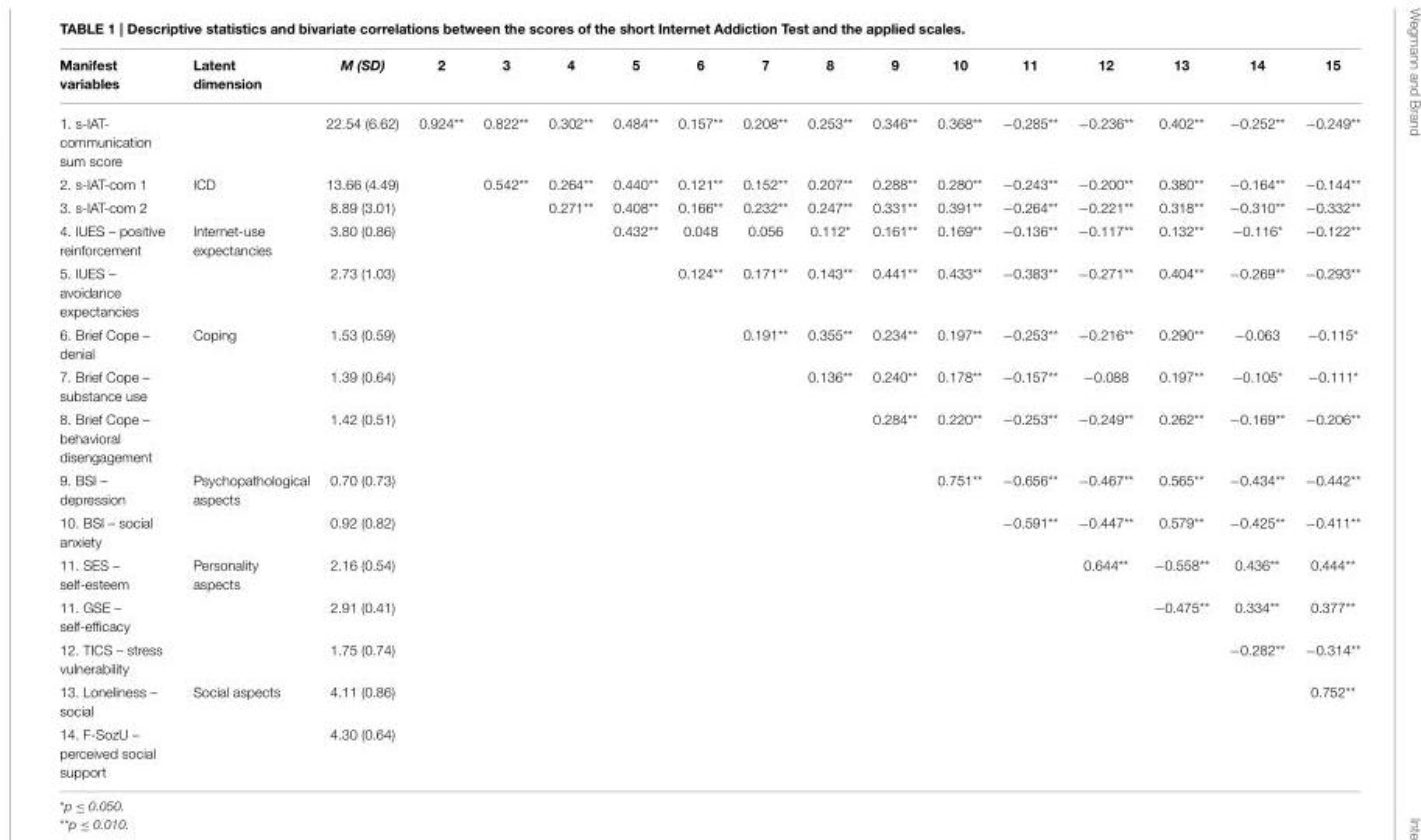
<table><thead><tr><td>Manifest variables</td><td>Latent dimension</td><td>M (SD)</td><td>2</td><td>3</td><td>4</td><td>5</td><td>6</td><td>7</td><td>8</td><td>9</td><td>10</td><td>11</td><td>12</td><td>13</td><td>14</td><td>15</td></tr></thead><tbody><tr><td>1. s-IAT- communication sum score</td><td></td><td>22.54 (6.62)</td><td>0.924**</td><td>0.822**</td><td>0.302**</td><td>0.484**</td><td>0.157**</td><td>0.208**</td><td>0.253**</td><td>0.346**</td><td>0.368**</td><td>−0.285**</td><td>−0.236**</td><td>0.402**</td><td>−0.252**</td><td>−0.249**</td></tr><tr><td>2. s-IAT-com 1</td><td>ICD</td><td>13.66 (4.49)</td><td></td><td>0.542**</td><td>0.264**</td><td>0.440**</td><td>0.121**</td><td>0.152**</td><td>0.207**</td><td>0.288**</td><td>0.280**</td><td>−0.243**</td><td>−0.200**</td><td>0.380**</td><td>−0.164**</td><td>−0.144**</td></tr><tr><td>3. s-IAT-com 2</td><td></td><td>8.89 (3.01)</td><td></td><td></td><td>0.271**</td><td>0.408**</td><td>0.166**</td><td>0.232**</td><td>0.247**</td><td>0.331**</td><td>0.391**</td><td>−0.264**</td><td>−0.221**</td><td>0.318**</td><td>−0.310**</td><td>−0.332**</td></tr><tr><td>4. IUES – positive reinforcement</td><td>Internet-use expectancies</td><td>3.80 (0.86)</td><td></td><td></td><td></td><td>0.432**</td><td>0.048</td><td>0.056</td><td>0.112*</td><td>0.161**</td><td>0.169**</td><td>−0.136**</td><td>−0.117**</td><td>0.132**</td><td>−0.116*</td><td>−0.122**</td></tr><tr><td>5. IUES – avoidance expectancies</td><td></td><td>2.73 (1.03)</td><td></td><td></td><td></td><td></td><td>0.124**</td><td>0.171**</td><td>0.143**</td><td>0.441**</td><td>0.433**</td><td>−0.383**</td><td>−0.271**</td><td>0.404**</td><td>−0.269**</td><td>−0.293**</td></tr><tr><td>6. Brief Cope – denial</td><td>Coping</td><td>1.53 (0.59)</td><td></td><td></td><td></td><td></td><td></td><td>0.191**</td><td>0.355**</td><td>0.234**</td><td>0.197**</td><td>−0.253**</td><td>−0.216**</td><td>0.290**</td><td>−0.063</td><td>−0.115*</td></tr><tr><td>7. Brief Cope – substance use</td><td></td><td>1.39 (0.64)</td><td></td><td></td><td></td><td></td><td></td><td></td><td>0.136**</td><td>0.240**</td><td>0.178**</td><td>−0.157**</td><td>−0.088</td><td>0.197**</td><td>−0.105*</td><td>−0.111*</td></tr><tr><td>8. Brief Cope – behavioral disengagement</td><td></td><td>1.42 (0.51)</td><td></td><td></td><td></td><td></td><td></td><td></td><td></td><td>0.284**</td><td>0.220**</td><td>−0.253**</td><td>−0.249**</td><td>0.262**</td><td>−0.169**</td><td>−0.206**</td></tr><tr><td>9. BSI – depression</td><td>Psychopathological aspects</td><td>0.70 (0.73)</td><td></td><td></td><td></td><td></td><td></td><td></td><td></td><td></td><td>0.751**</td><td>−0.656**</td><td>−0.467**</td><td>0.565**</td><td>−0.434**</td><td>−0.442**</td></tr><tr><td>10. BSI – social anxiety</td><td></td><td>0.92 (0.82)</td><td></td><td></td><td></td><td></td><td></td><td></td><td></td><td></td><td></td><td>−0.591**</td><td>−0.447**</td><td>0.579**</td><td>−0.425**</td><td>−0.411**</td></tr><tr><td>11. SES – self-esteem</td><td>Personality aspects</td><td>2.16 (0.54)</td><td></td><td></td><td></td><td></td><td></td><td></td><td></td><td></td><td></td><td></td><td>0.644**</td><td>−0.558**</td><td>0.436**</td><td>0.444**</td></tr><tr><td>11. GSE – self-efficacy</td><td></td><td>2.91 (0.41)</td><td></td><td></td><td></td><td></td><td></td><td></td><td></td><td></td><td></td><td></td><td></td><td>−0.475**</td><td>0.334**</td><td>0.377**</td></tr><tr><td>12. TICS – stress vulnerability</td><td></td><td>1.75 (0.74)</td><td></td><td></td><td></td><td></td><td></td><td></td><td></td><td></td><td></td><td></td><td></td><td></td><td>−0.282**</td><td>−0.314**</td></tr><tr><td>13. Loneliness – social</td><td>Social aspects</td><td>4.11 (0.86)</td><td></td><td></td><td></td><td></td><td></td><td></td><td></td><td></td><td></td><td></td><td></td><td></td><td></td><td>0.752**</td></tr><tr><td>14. F-SozU – perceived social support</td><td></td><td>4.30 (0.64)</td><td></td><td></td><td></td><td></td><td></td><td></td><td></td><td></td><td></td><td></td><td></td><td></td><td></td><td></td></tr></tbody></table>